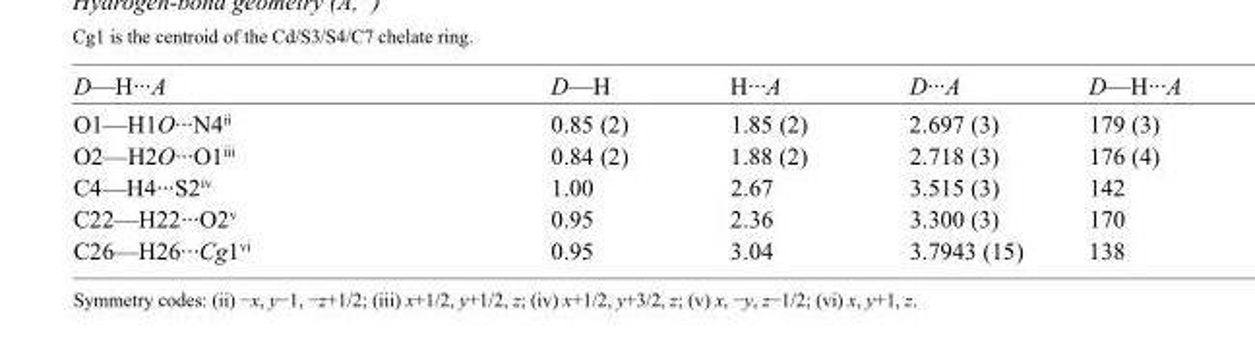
<table><tbody><tr><td>D—H···A</td><td>D—H</td><td>H···A</td><td>D···A</td><td>D—H···A</td></tr><tr><td>O1—H1O···N4<sup>ii</sup></td><td>0.85 (2)</td><td>1.85 (2)</td><td>2.697 (3)</td><td>179 (3)</td></tr><tr><td>O2—H2O···O1<sup>iii</sup></td><td>0.84 (2)</td><td>1.88 (2)</td><td>2.718 (3)</td><td>176 (4)</td></tr><tr><td>C4—H4···S2<sup>iv</sup></td><td>1.00</td><td>2.67</td><td>3.515 (3)</td><td>142</td></tr><tr><td>C22—H22···O2<sup>v</sup></td><td>0.95</td><td>2.36</td><td>3.300 (3)</td><td>170</td></tr><tr><td>C26—H26···Cg1<sup>vi</sup></td><td>0.95</td><td>3.04</td><td>3.7943 (15)</td><td>138</td></tr></tbody></table>